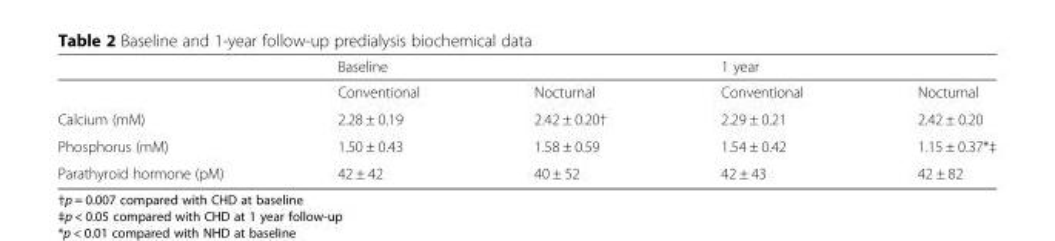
<table><thead><tr><td rowspan="2"></td><td colspan="2">Baseline</td><td colspan="2">1 year</td></tr><tr><td>Conventional</td><td>Nocturnal</td><td>Conventional</td><td>Nocturnal</td></tr></thead><tbody><tr><td>Calcium (mM)</td><td>2.28 ± 0.19</td><td>2.42 ± 0.20†</td><td>2.29 ± 0.21</td><td>2.42 ± 0.20</td></tr><tr><td>Phosphorus (mM)</td><td>1.50 ± 0.43</td><td>1.58 ± 0.59</td><td>1.54 ± 0.42</td><td>1.15 ± 0.37*‡</td></tr><tr><td>Parathyroid hormone (pM)</td><td>42 ± 42</td><td>40 ± 52</td><td>42 ± 43</td><td>42 ± 82</td></tr></tbody></table>